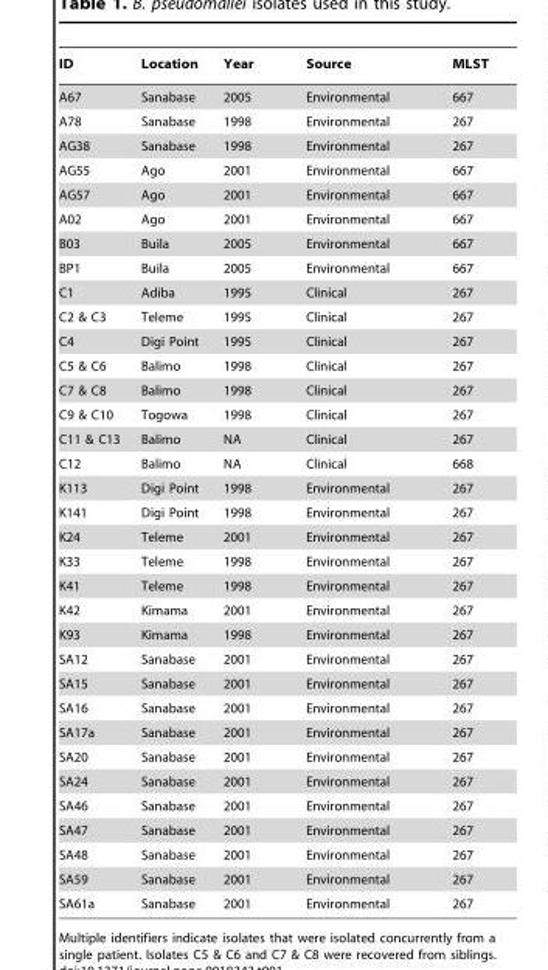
<table><thead><tr><td>ID</td><td>Location</td><td>Year</td><td>Source</td><td>MLST</td></tr></thead><tbody><tr><td>A67</td><td>Sanabase</td><td>2005</td><td>Environmental</td><td>667</td></tr><tr><td>A78</td><td>Sanabase</td><td>1998</td><td>Environmental</td><td>267</td></tr><tr><td>AG38</td><td>Sanabase</td><td>1998</td><td>Environmental</td><td>267</td></tr><tr><td>AG55</td><td>Ago</td><td>2001</td><td>Environmental</td><td>667</td></tr><tr><td>AG57</td><td>Ago</td><td>2001</td><td>Environmental</td><td>667</td></tr><tr><td>A02</td><td>Ago</td><td>2001</td><td>Environmental</td><td>667</td></tr><tr><td>B03</td><td>Buila</td><td>2005</td><td>Environmental</td><td>667</td></tr><tr><td>BP1</td><td>Buila</td><td>2005</td><td>Environmental</td><td>667</td></tr><tr><td>C1</td><td>Adiba</td><td>1995</td><td>Clinical</td><td>267</td></tr><tr><td>C2 &amp; C3</td><td>Teleme</td><td>1995</td><td>Clinical</td><td>267</td></tr><tr><td>C4</td><td>Digi Point</td><td>1995</td><td>Clinical</td><td>267</td></tr><tr><td>C5 &amp; C6</td><td>Balimo</td><td>1998</td><td>Clinical</td><td>267</td></tr><tr><td>C7 &amp; C8</td><td>Balimo</td><td>1998</td><td>Clinical</td><td>267</td></tr><tr><td>C9 &amp; C10</td><td>Togowa</td><td>1998</td><td>Clinical</td><td>267</td></tr><tr><td>C11 &amp; C13</td><td>Balimo</td><td>NA</td><td>Clinical</td><td>267</td></tr><tr><td>C12</td><td>Balimo</td><td>NA</td><td>Clinical</td><td>668</td></tr><tr><td>K113</td><td>Digi Point</td><td>1998</td><td>Environmental</td><td>267</td></tr><tr><td>K141</td><td>Digi Point</td><td>1998</td><td>Environmental</td><td>267</td></tr><tr><td>K24</td><td>Teleme</td><td>2001</td><td>Environmental</td><td>267</td></tr><tr><td>K33</td><td>Teleme</td><td>1998</td><td>Environmental</td><td>267</td></tr><tr><td>K41</td><td>Teleme</td><td>1998</td><td>Environmental</td><td>267</td></tr><tr><td>K42</td><td>Kimama</td><td>2001</td><td>Environmental</td><td>267</td></tr><tr><td>K93</td><td>Kimama</td><td>1998</td><td>Environmental</td><td>267</td></tr><tr><td>SA12</td><td>Sanabase</td><td>2001</td><td>Environmental</td><td>267</td></tr><tr><td>SA15</td><td>Sanabase</td><td>2001</td><td>Environmental</td><td>267</td></tr><tr><td>SA16</td><td>Sanabase</td><td>2001</td><td>Environmental</td><td>267</td></tr><tr><td>SA17a</td><td>Sanabase</td><td>2001</td><td>Environmental</td><td>267</td></tr><tr><td>SA20</td><td>Sanabase</td><td>2001</td><td>Environmental</td><td>267</td></tr><tr><td>SA24</td><td>Sanabase</td><td>2001</td><td>Environmental</td><td>267</td></tr><tr><td>SA46</td><td>Sanabase</td><td>2001</td><td>Environmental</td><td>267</td></tr><tr><td>SA47</td><td>Sanabase</td><td>2001</td><td>Environmental</td><td>267</td></tr><tr><td>SA48</td><td>Sanabase</td><td>2001</td><td>Environmental</td><td>267</td></tr><tr><td>SA59</td><td>Sanabase</td><td>2001</td><td>Environmental</td><td>267</td></tr><tr><td>SA61a</td><td>Sanabase</td><td>2001</td><td>Environmental</td><td>267</td></tr></tbody></table>